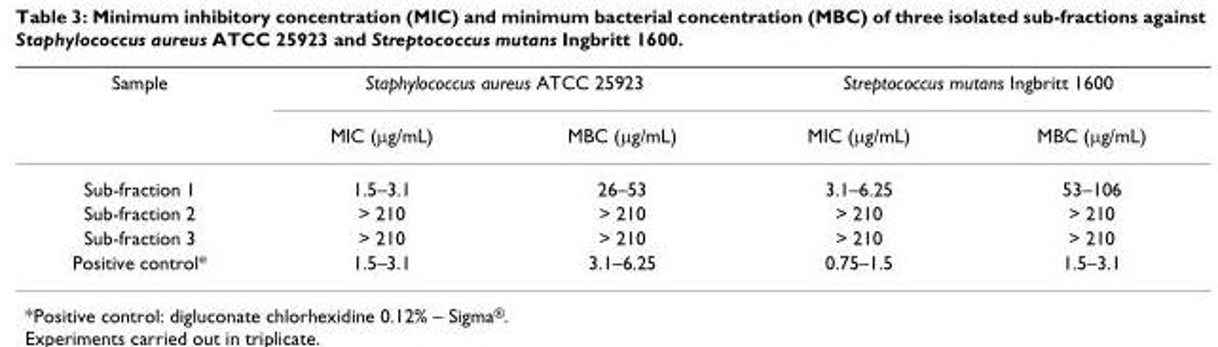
<table><thead><tr><td rowspan="2">Sample</td><td colspan="2">Staphylococcus aureus ATCC 25923</td><td colspan="2">Streptococcus mutans Ingbritt 1600</td></tr><tr><td>MIC (μg/mL)</td><td>MBC (μg/mL)</td><td>MIC (μg/mL)</td><td>MBC (μg/mL)</td></tr></thead><tbody><tr><td>Sub-fraction 1</td><td>1.5–3.1</td><td>26–53</td><td>3.1–6.25</td><td>53–106</td></tr><tr><td>Sub-fraction 2</td><td>&gt; 210</td><td>&gt; 210</td><td>&gt; 210</td><td>&gt; 210</td></tr><tr><td>Sub-fraction 3</td><td>&gt; 210</td><td>&gt; 210</td><td>&gt; 210</td><td>&gt; 210</td></tr><tr><td>Positive control*</td><td>1.5–3.1</td><td>3.1–6.25</td><td>0.75–1.5</td><td>1.5–3.1</td></tr></tbody></table>